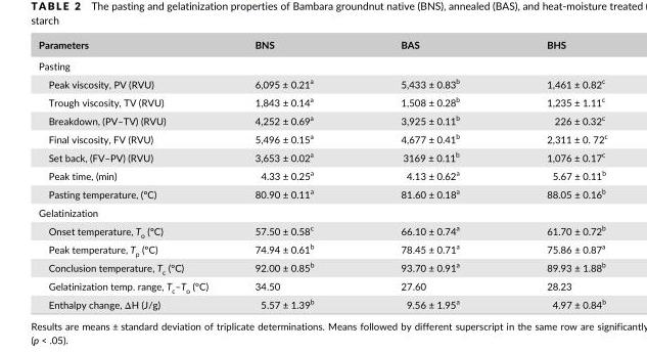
<table><thead><tr><td>Parameters</td><td>BNS</td><td>BAS</td><td>BHS</td></tr></thead><tbody><tr><td colspan="4">Pasting</td></tr><tr><td>Peak viscosity, PV (RVU)</td><td>6,095 ± 0.21<sup>a</sup></td><td>5,433 ± 0.83<sup>b</sup></td><td>1,461 ± 0.82<sup>c</sup></td></tr><tr><td>Trough viscosity, TV (RVU)</td><td>1,843 ± 0.14<sup>a</sup></td><td>1,508 ± 0.28<sup>b</sup></td><td>1,235 ± 1.11<sup>c</sup></td></tr><tr><td>Breakdown, (PV–TV) (RVU)</td><td>4,252 ± 0.69<sup>a</sup></td><td>3,925 ± 0.11<sup>b</sup></td><td>226 ± 0.32<sup>c</sup></td></tr><tr><td>Final viscosity, FV (RVU)</td><td>5,496 ± 0.15<sup>a</sup></td><td>4,677 ± 0.41<sup>b</sup></td><td>2,311 ± 0. 72<sup>c</sup></td></tr><tr><td>Set back, (FV–PV) (RVU)</td><td>3,653 ± 0.02<sup>a</sup></td><td>3169 ± 0.11<sup>b</sup></td><td>1,076 ± 0.17<sup>c</sup></td></tr><tr><td>Peak time, (min)</td><td>4.33 ± 0.25<sup>a</sup></td><td>4.13 ± 0.62<sup>a</sup></td><td>5.67 ± 0.11<sup>b</sup></td></tr><tr><td>Pasting temperature, (ºC)</td><td>80.90 ± 0.11<sup>a</sup></td><td>81.60 ± 0.18<sup>a</sup></td><td>88.05 ± 0.16<sup>b</sup></td></tr><tr><td colspan="4">Gelatinization</td></tr><tr><td>Onset temperature, T<sub>o</sub> (ºC)</td><td>57.50 ± 0.58<sup>c</sup></td><td>66.10 ± 0.74<sup>a</sup></td><td>61.70 ± 0.72<sup>b</sup></td></tr><tr><td>Peak temperature, T<sub>p</sub> (ºC)</td><td>74.94 ± 0.61<sup>b</sup></td><td>78.45 ± 0.71<sup>a</sup></td><td>75.86 ± 0.87<sup>a</sup></td></tr><tr><td>Conclusion temperature, T<sub>c</sub> (°C)</td><td>92.00 ± 0.85<sup>b</sup></td><td>93.70 ± 0.91<sup>a</sup></td><td>89.93 ± 1.88<sup>b</sup></td></tr><tr><td>Gelatinization temp. range, T<sub>c</sub>–T<sub>o</sub> (°C)</td><td>34.50</td><td>27.60</td><td>28.23</td></tr><tr><td>Enthalpy change, ΔH (J/g)</td><td>5.57 ± 1.39<sup>b</sup></td><td>9.56 ± 1.95<sup>a</sup></td><td>4.97 ± 0.84<sup>b</sup></td></tr></tbody></table>